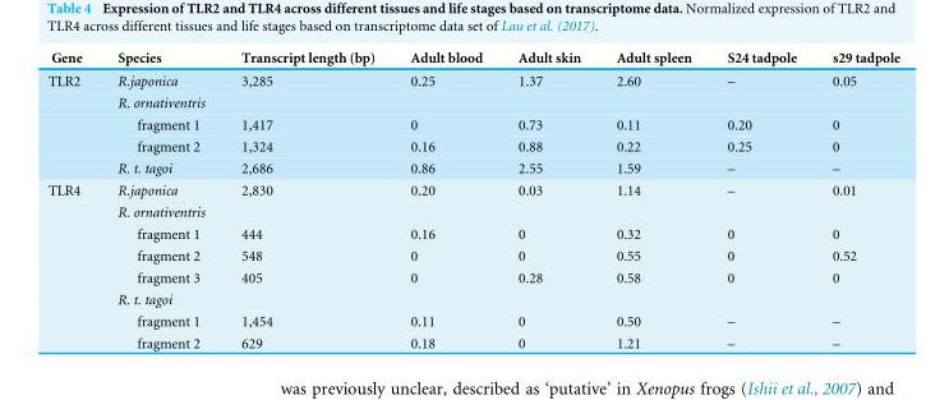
<table><thead><tr><td>Gene</td><td>Species</td><td>Transcript length (bp)</td><td>Adult blood</td><td>Adult skin</td><td>Adult spleen</td><td>S24 tadpole</td><td>s29 tadpole</td></tr></thead><tbody><tr><td rowspan="5">TLR2</td><td>R.japonica</td><td>3,285</td><td>0.25</td><td>1.37</td><td>2.60</td><td>–</td><td>0.05</td></tr><tr><td>R. ornativentris</td><td></td><td></td><td></td><td></td><td></td><td></td></tr><tr><td>fragment 1</td><td>1,417</td><td>0</td><td>0.73</td><td>0.11</td><td>0.20</td><td>0</td></tr><tr><td>fragment 2</td><td>1,324</td><td>0.16</td><td>0.88</td><td>0.22</td><td>0.25</td><td>0</td></tr><tr><td>R. t. tagoi</td><td>2,686</td><td>0.86</td><td>2.55</td><td>1.59</td><td>–</td><td>–</td></tr><tr><td rowspan="8">TLR4</td><td>R.japonica</td><td>2,830</td><td>0.20</td><td>0.03</td><td>1.14</td><td>–</td><td>0.01</td></tr><tr><td>R. ornativentris</td><td></td><td></td><td></td><td></td><td></td><td></td></tr><tr><td>fragment 1</td><td>444</td><td>0.16</td><td>0</td><td>0.32</td><td>0</td><td>0</td></tr><tr><td>fragment 2</td><td>548</td><td>0</td><td>0</td><td>0.55</td><td>0</td><td>0.52</td></tr><tr><td>fragment 3</td><td>405</td><td>0</td><td>0.28</td><td>0.58</td><td>0</td><td>0</td></tr><tr><td>R. t. tagoi</td><td></td><td></td><td></td><td></td><td></td><td></td></tr><tr><td>fragment 1</td><td>1,454</td><td>0.11</td><td>0</td><td>0.50</td><td>–</td><td>–</td></tr><tr><td>fragment 2</td><td>629</td><td>0.18</td><td>0</td><td>1.21</td><td>–</td><td>–</td></tr></tbody></table>